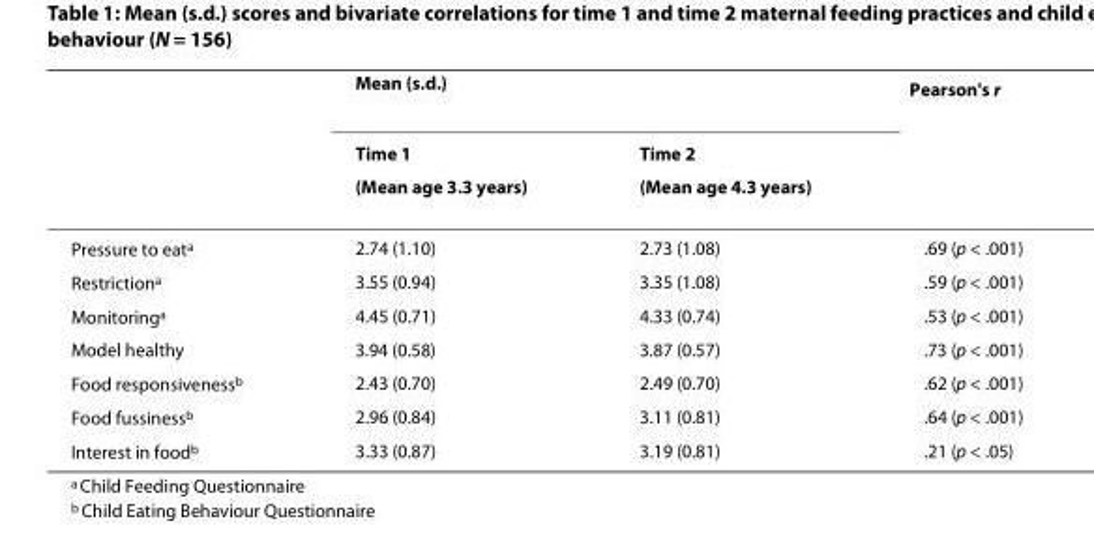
<table><thead><tr><td rowspan="3"></td><td colspan="2">Mean (s.d.)</td><td rowspan="3">Pearson&#x27;s r</td></tr><tr><td rowspan="2">Time 1 (Mean age 3.3 years)</td><td rowspan="2">Time 2 (Mean age 4.3 years)</td></tr><tr></tr></thead><tbody><tr><td>Pressure to eat<sup>a</sup></td><td>2.74 (1.10)</td><td>2.73 (1.08)</td><td>.69 (p &lt; .001)</td></tr><tr><td>Restriction<sup>a</sup></td><td>3.55 (0.94)</td><td>3.35 (1.08)</td><td>.59 (p &lt; .001)</td></tr><tr><td>Monitoring<sup>a</sup></td><td>4.45 (0.71)</td><td>4.33 (0.74)</td><td>.53 (p &lt; .001)</td></tr><tr><td>Model healthy</td><td>3.94 (0.58)</td><td>3.87 (0.57)</td><td>.73 (p &lt; .001)</td></tr><tr><td>Food responsiveness<sup>b</sup></td><td>2.43 (0.70)</td><td>2.49 (0.70)</td><td>.62 (p &lt; .001)</td></tr><tr><td>Food fussiness<sup>b</sup></td><td>2.96 (0.84)</td><td>3.11 (0.81)</td><td>.64 (p &lt; .001)</td></tr><tr><td>Interest in food<sup>b</sup></td><td>3.33 (0.87)</td><td>3.19 (0.81)</td><td>.21 (p &lt; .05)</td></tr></tbody></table>